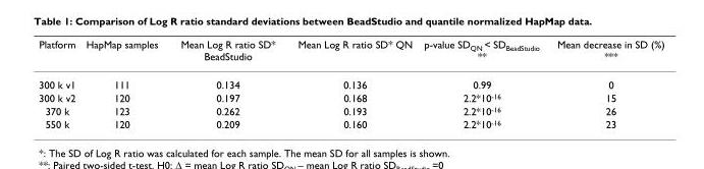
<table><thead><tr><td>Platform</td><td>HapMap samples</td><td>Mean Log R ratio SD* BeadStudio</td><td>Mean Log R ratio SD* QN</td><td>p-value SD<sub>QN</sub> &lt; SD<sub>BeadStudio</sub> **</td><td>Mean decrease in SD (%) ***</td></tr></thead><tbody><tr><td>300 k v1</td><td>111</td><td>0.134</td><td>0.136</td><td>0.99</td><td>0</td></tr><tr><td>300 k v2</td><td>120</td><td>0.197</td><td>0.168</td><td>2.2*10<sup>-16</sup></td><td>15</td></tr><tr><td>370 k</td><td>123</td><td>0.262</td><td>0.193</td><td>2.2*10<sup>-16</sup></td><td>26</td></tr><tr><td>550 k</td><td>120</td><td>0.209</td><td>0.160</td><td>2.2*10<sup>-16</sup></td><td>23</td></tr></tbody></table>